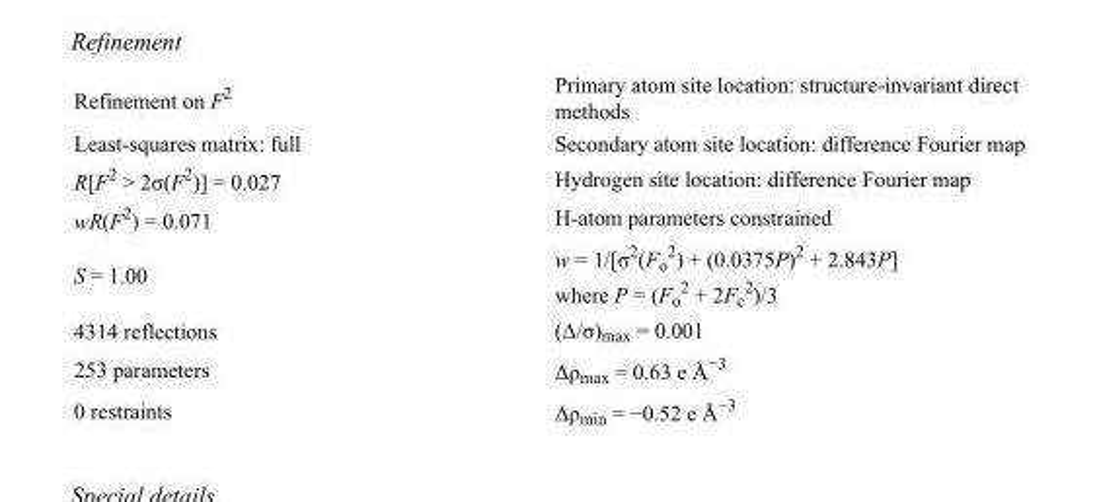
<table><tbody><tr><td>Refinement on F<sup>2</sup></td><td>Primary atom site location: structure-invariant direct methods</td></tr><tr><td>Least-squares matrix: full</td><td>Secondary atom site location: difference Fourier map</td></tr><tr><td>R[F<sup>2</sup> &gt; 2σ(F<sup>2</sup>)] = 0.027</td><td>Hydrogen site location: difference Fourier map</td></tr><tr><td>wR(F<sup>2</sup>) = 0.071</td><td>H-atom parameters constrained</td></tr><tr><td>S = 1.00</td><td>w = 1/[σ<sup>2</sup>(F<sub>o</sub> <sup>2</sup>) + (0.0375P)<sup>2</sup> + 2.843P] where P = (F<sub>o</sub> <sup>2</sup> + 2F<sub>c</sub> <sup>2</sup>)/3</td></tr><tr><td>4314 reflections</td><td>(Δ/σ)<sub>max</sub> = 0.001</td></tr><tr><td>253 parameters</td><td>Δρ<sub>max</sub> = 0.63 e Å<sup>−3</sup></td></tr><tr><td>0 restraints</td><td>Δρ<sub>min</sub> = −0.52 e Å<sup>−3</sup></td></tr></tbody></table>